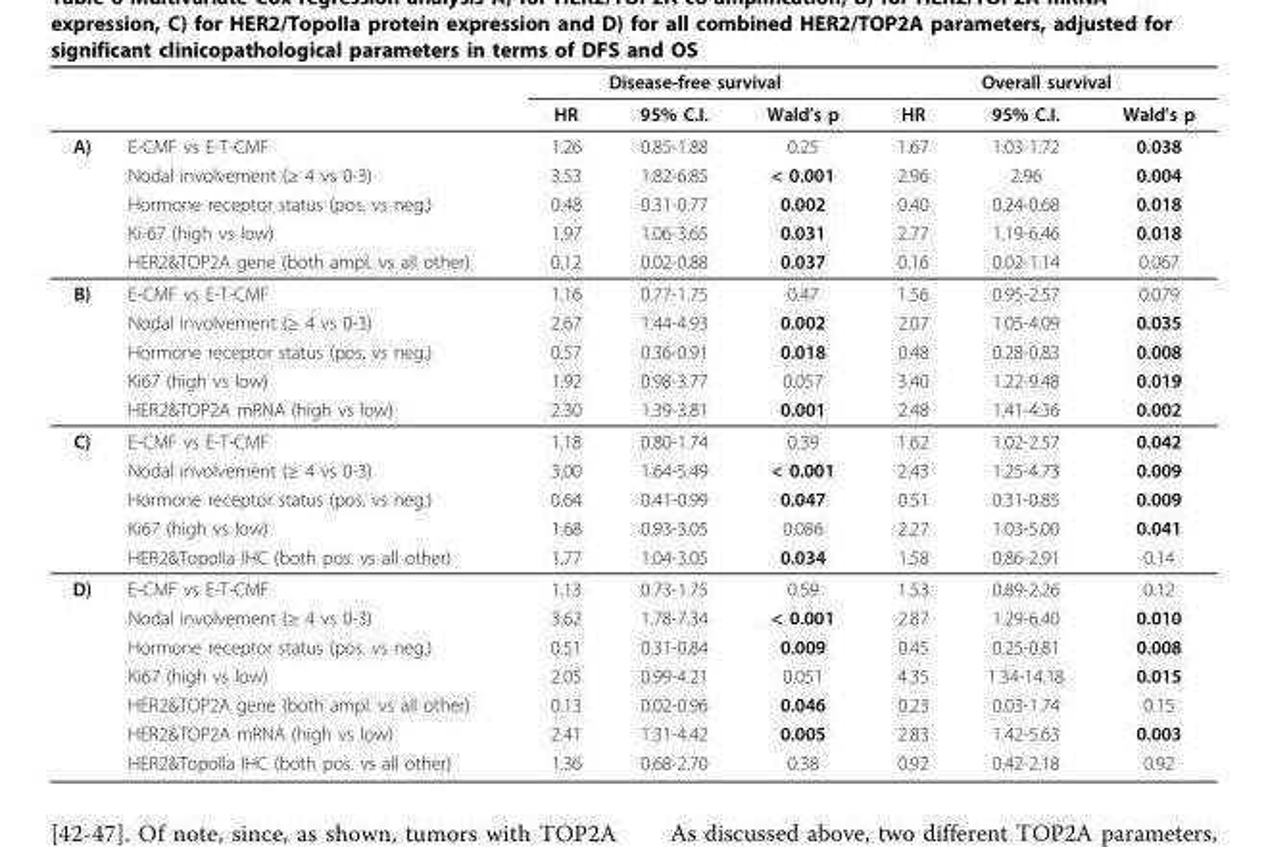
<table><thead><tr><td rowspan="2"></td><td rowspan="2"></td><td colspan="3">Disease-free survival</td><td colspan="3">Overall survival</td></tr><tr><td>HR</td><td>95% C.I.</td><td>Wald’s p</td><td>HR</td><td>95% C.I.</td><td>Wald’s p</td></tr></thead><tbody><tr><td rowspan="5">A)</td><td>E-CMF vs E-T-CMF</td><td>1.26</td><td>0.85-1.88</td><td>0.25</td><td>1.67</td><td>1.03-1.72</td><td>0.038</td></tr><tr><td>Nodal involvement (≥ 4 vs 0-3)</td><td>3.53</td><td>1.82-6.85</td><td>&lt; 0.001</td><td>2.96</td><td>2.96</td><td>0.004</td></tr><tr><td>Hormone receptor status (pos. vs neg.)</td><td>0.48</td><td>0.31-0.77</td><td>0.002</td><td>0.40</td><td>0.24-0.68</td><td>0.018</td></tr><tr><td>Ki-67 (high vs low)</td><td>1.97</td><td>1.06-3.65</td><td>0.031</td><td>2.77</td><td>1.19-6.46</td><td>0.018</td></tr><tr><td>HER2&amp;TOP2A gene (both ampl. vs all other)</td><td>0.12</td><td>0.02-0.88</td><td>0.037</td><td>0.16</td><td>0.02-1.14</td><td>0.067</td></tr><tr><td rowspan="5">B)</td><td>E-CMF vs E-T-CMF</td><td>1.16</td><td>0.77-1.75</td><td>0.47</td><td>1.56</td><td>0.95-2.57</td><td>0.079</td></tr><tr><td>Nodal involvement (≥ 4 vs 0-3)</td><td>2.67</td><td>1.44-4.93</td><td>0.002</td><td>2.07</td><td>1.05-4.09</td><td>0.035</td></tr><tr><td>Hormone receptor status (pos. vs neg.)</td><td>0.57</td><td>0.36-0.91</td><td>0.018</td><td>0.48</td><td>0.28-0.83</td><td>0.008</td></tr><tr><td>Ki67 (high vs low)</td><td>1.92</td><td>0.98-3.77</td><td>0.057</td><td>3.40</td><td>1.22-9.48</td><td>0.019</td></tr><tr><td>HER2&amp;TOP2A mRNA (high vs low)</td><td>2.30</td><td>1.39-3.81</td><td>0.001</td><td>2.48</td><td>1.41-4.36</td><td>0.002</td></tr><tr><td rowspan="5">C)</td><td>E-CMF vs E-T-CMF</td><td>1.18</td><td>0.80-1.74</td><td>0.39</td><td>1.62</td><td>1.02-2.57</td><td>0.042</td></tr><tr><td>Nodal involvement (≥ 4 vs 0-3)</td><td>3.00</td><td>1.64-5.49</td><td>&lt; 0.001</td><td>2.43</td><td>1.25-4.73</td><td>0.009</td></tr><tr><td>Hormone receptor status (pos. vs neg.)</td><td>0.64</td><td>0.41-0.99</td><td>0.047</td><td>0.51</td><td>0.31-0.85</td><td>0.009</td></tr><tr><td>Ki67 (high vs low)</td><td>1.68</td><td>0.93-3.05</td><td>0.086</td><td>2.27</td><td>1.03-5.00</td><td>0.041</td></tr><tr><td>HER2&amp;TopoIIa IHC (both pos. vs all other)</td><td>1.77</td><td>1.04-3.05</td><td>0.034</td><td>1.58</td><td>0.86-2.91</td><td>0.14</td></tr><tr><td rowspan="7">D)</td><td>E-CMF vs E-T-CMF</td><td>1.13</td><td>0.73-1.75</td><td>0.59</td><td>1.53</td><td>0.89-2.26</td><td>0.12</td></tr><tr><td>Nodal involvement (≥ 4 vs 0-3)</td><td>3.62</td><td>1.78-7.34</td><td>&lt; 0.001</td><td>2.87</td><td>1.29-6.40</td><td>0.010</td></tr><tr><td>Hormone receptor status (pos. vs neg.)</td><td>0.51</td><td>0.31-0.84</td><td>0.009</td><td>0.45</td><td>0.25-0.81</td><td>0.008</td></tr><tr><td>Ki67 (high vs low)</td><td>2.05</td><td>0.99-4.21</td><td>0.051</td><td>4.35</td><td>1.34-14.18</td><td>0.015</td></tr><tr><td>HER2&amp;TOP2A gene (both ampl. vs all other)</td><td>0.13</td><td>0.02-0.96</td><td>0.046</td><td>0.23</td><td>0.03-1.74</td><td>0.15</td></tr><tr><td>HER2&amp;TOP2A mRNA (high vs low)</td><td>2.41</td><td>1.31-4.42</td><td>0.005</td><td>2.83</td><td>1.42-5.63</td><td>0.003</td></tr><tr><td>HER2&amp;TopoIIa IHC (both pos. vs all other)</td><td>1.36</td><td>0.68-2.70</td><td>0.38</td><td>0.92</td><td>0.42-2.18</td><td>0.92</td></tr></tbody></table>